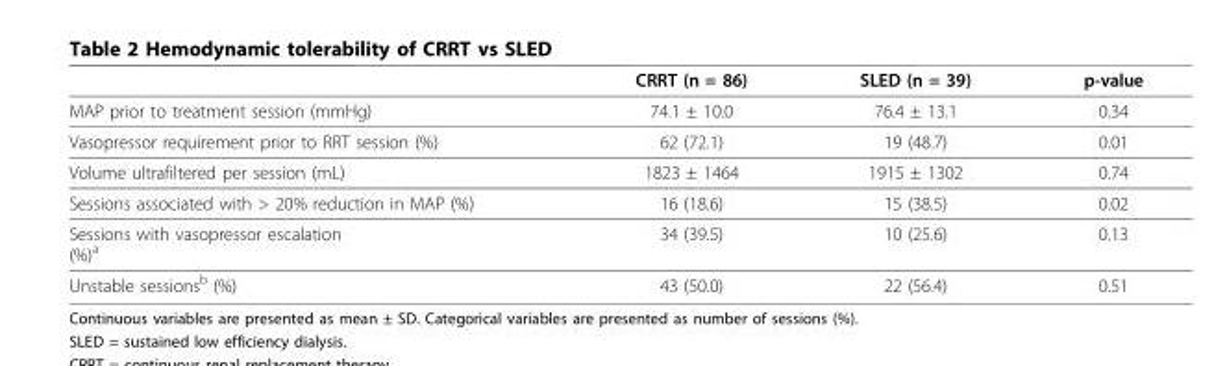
<table><thead><tr><td></td><td>CRRT (n = 86)</td><td>SLED (n = 39)</td><td>p-value</td></tr></thead><tbody><tr><td>MAP prior to treatment session (mmHg)</td><td>74.1 ± 10.0</td><td>76.4 ± 13.1</td><td>0.34</td></tr><tr><td>Vasopressor requirement prior to RRT session (%)</td><td>62 (72.1)</td><td>19 (48.7)</td><td>0.01</td></tr><tr><td>Volume ultrafiltered per session (mL)</td><td>1823 ± 1464</td><td>1915 ± 1302</td><td>0.74</td></tr><tr><td>Sessions associated with &gt; 20% reduction in MAP (%)</td><td>16 (18.6)</td><td>15 (38.5)</td><td>0.02</td></tr><tr><td>Sessions with vasopressor escalation (%)<sup>a</sup></td><td>34 (39.5)</td><td>10 (25.6)</td><td>0.13</td></tr><tr><td>Unstable sessions<sup>b</sup> (%)</td><td>43 (50.0)</td><td>22 (56.4)</td><td>0.51</td></tr></tbody></table>